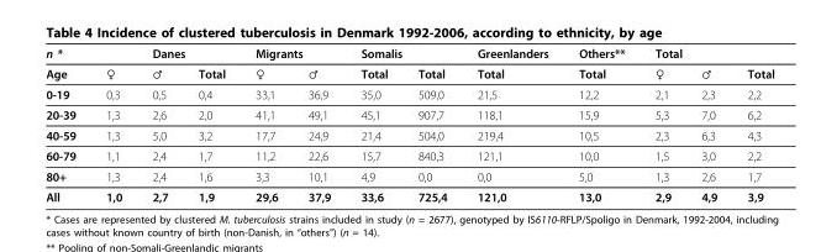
<table><thead><tr><td colspan="2">n *</td><td colspan="2">Danes</td><td colspan="2">Migrants</td><td colspan="2">Somalis</td><td rowspan="2">Greenlanders Total</td><td rowspan="2">Others** Total</td><td colspan="3">Total</td></tr><tr><td>Age</td><td>♀</td><td>♂</td><td>Total</td><td>♀</td><td>♂</td><td>Total</td><td>Total</td><td>♀</td><td>♂</td><td>Total</td></tr></thead><tbody><tr><td>0-19</td><td>0,3</td><td>0,5</td><td>0,4</td><td>33,1</td><td>36,9</td><td>35,0</td><td>509,0</td><td>21,5</td><td>12,2</td><td>2,1</td><td>2,3</td><td>2,2</td></tr><tr><td>20-39</td><td>1,3</td><td>2,6</td><td>2,0</td><td>41,1</td><td>49,1</td><td>45,1</td><td>907,7</td><td>118,1</td><td>15,9</td><td>5,3</td><td>7,0</td><td>6,2</td></tr><tr><td>40-59</td><td>1,3</td><td>5,0</td><td>3,2</td><td>17,7</td><td>24,9</td><td>21,4</td><td>504,0</td><td>219,4</td><td>10,5</td><td>2,3</td><td>6,3</td><td>4,3</td></tr><tr><td>60-79</td><td>1,1</td><td>2,4</td><td>1,7</td><td>11,2</td><td>22,6</td><td>15,7</td><td>840,3</td><td>121,1</td><td>10,0</td><td>1,5</td><td>3,0</td><td>2,2</td></tr><tr><td>80+</td><td>1,3</td><td>2,4</td><td>1,6</td><td>3,3</td><td>10,1</td><td>4,9</td><td>0,0</td><td>0,0</td><td>5,0</td><td>1,3</td><td>2,6</td><td>1,7</td></tr><tr><td>All</td><td>1,0</td><td>2,7</td><td>1,9</td><td>29,6</td><td>37,9</td><td>33,6</td><td>725,4</td><td>121,0</td><td>13,0</td><td>2,9</td><td>4,9</td><td>3,9</td></tr></tbody></table>